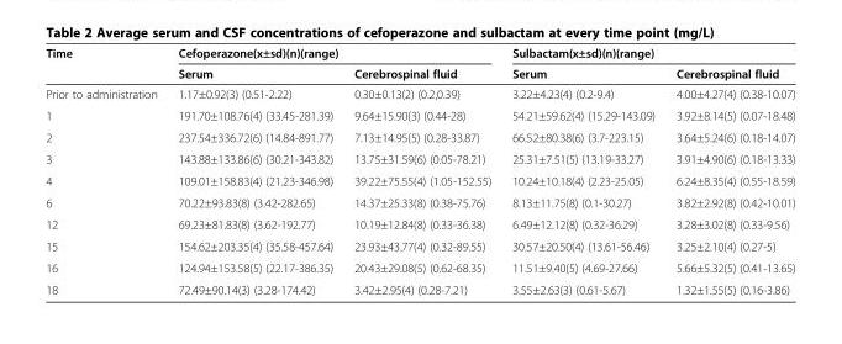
<table><thead><tr><td rowspan="2">Time</td><td colspan="2">Cefoperazone(x±sd)(n)(range)</td><td colspan="2">Sulbactam(x±sd)(n)(range)</td></tr><tr><td>Serum</td><td>Cerebrospinal fluid</td><td>Serum</td><td>Cerebrospinal fluid</td></tr></thead><tbody><tr><td>Prior to administration</td><td>1.17±0.92(3) (0.51-2.22)</td><td>0.30±0.13(2) (0.2,0.39)</td><td>3.22±4.23(4) (0.2-9.4)</td><td>4.00±4.27(4) (0.38-10.07)</td></tr><tr><td>1</td><td>191.70±108.76(4) (33.45-281.39)</td><td>9.64±15.90(3) (0.44-28)</td><td>54.21±59.62(4) (15.29-143.09)</td><td>3.92±8.14(5) (0.07-18.48)</td></tr><tr><td>2</td><td>237.54±336.72(6) (14.84-891.77)</td><td>7.13±14.95(5) (0.28-33.87)</td><td>66.52±80.38(6) (3.7-223.15)</td><td>3.64±5.24(6) (0.18-14.07)</td></tr><tr><td>3</td><td>143.88±133.86(6) (30.21-343.82)</td><td>13.75±31.59(6) (0.05-78.21)</td><td>25.31±7.51(5) (13.19-33.27)</td><td>3.91±4.90(6) (0.18-13.33)</td></tr><tr><td>4</td><td>109.01±158.83(4) (21.23-346.98)</td><td>39.22±75.55(4) (1.05-152.55)</td><td>10.24±10.18(4) (2.23-25.05)</td><td>6.24±8.35(4) (0.55-18.59)</td></tr><tr><td>6</td><td>70.22±93.83(8) (3.42-282.65)</td><td>14.37±25.33(8) (0.38-75.76)</td><td>8.13±11.75(8) (0.1-30.27)</td><td>3.82±2.92(8) (0.42-10.01)</td></tr><tr><td>12</td><td>69.23±81.83(8) (3.62-192.77)</td><td>10.19±12.84(8) (0.33-36.38)</td><td>6.49±12.12(8) (0.32-36.29)</td><td>3.28±3.02(8) (0.33-9.56)</td></tr><tr><td>15</td><td>154.62±203.35(4) (35.58-457.64)</td><td>23.93±43.77(4) (0.32-89.55)</td><td>30.57±20.50(4) (13.61-56.46)</td><td>3.25±2.10(4) (0.27-5)</td></tr><tr><td>16</td><td>124.94±153.58(5) (22.17-386.35)</td><td>20.43±29.08(5) (0.62-68.35)</td><td>11.51±9.40(5) (4.69-27.66)</td><td>5.66±5.32(5) (0.41-13.65)</td></tr><tr><td>18</td><td>72.49±90.14(3) (3.28-174.42)</td><td>3.42±2.95(4) (0.28-7.21)</td><td>3.55±2.63(3) (0.61-5.67)</td><td>1.32±1.55(5) (0.16-3.86)</td></tr></tbody></table>